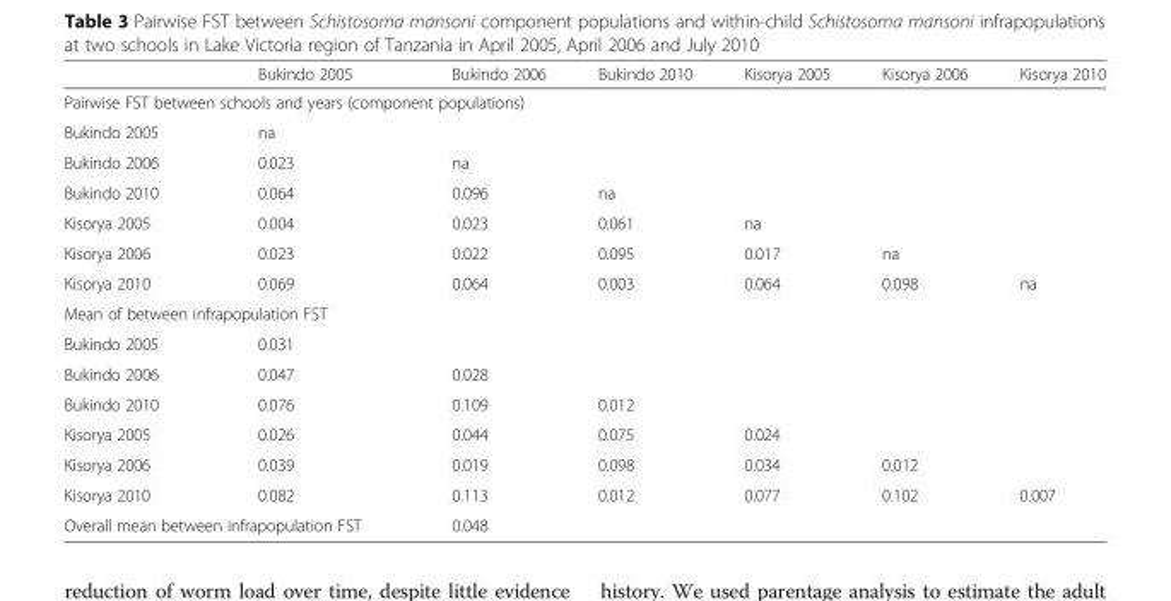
<table><thead><tr><td></td><td>Bukindo 2005</td><td>Bukindo 2006</td><td>Bukindo 2010</td><td>Kisorya 2005</td><td>Kisorya 2006</td><td>Kisorya 2010</td></tr></thead><tbody><tr><td colspan="7">Pairwise FST between schools and years (component populations)</td></tr><tr><td>Bukindo 2005</td><td>na</td><td></td><td></td><td></td><td></td><td></td></tr><tr><td>Bukindo 2006</td><td>0.023</td><td>na</td><td></td><td></td><td></td><td></td></tr><tr><td>Bukindo 2010</td><td>0.064</td><td>0.096</td><td>na</td><td></td><td></td><td></td></tr><tr><td>Kisorya 2005</td><td>0.004</td><td>0.023</td><td>0.061</td><td>na</td><td></td><td></td></tr><tr><td>Kisorya 2006</td><td>0.023</td><td>0.022</td><td>0.095</td><td>0.017</td><td>na</td><td></td></tr><tr><td>Kisorya 2010</td><td>0.069</td><td>0.064</td><td>0.003</td><td>0.064</td><td>0.098</td><td>na</td></tr><tr><td colspan="7">Mean of between infrapopulation FST</td></tr><tr><td>Bukindo 2005</td><td>0.031</td><td></td><td></td><td></td><td></td><td></td></tr><tr><td>Bukindo 2006</td><td>0.047</td><td>0.028</td><td></td><td></td><td></td><td></td></tr><tr><td>Bukindo 2010</td><td>0.076</td><td>0.109</td><td>0.012</td><td></td><td></td><td></td></tr><tr><td>Kisorya 2005</td><td>0.026</td><td>0.044</td><td>0.075</td><td>0.024</td><td></td><td></td></tr><tr><td>Kisorya 2006</td><td>0.039</td><td>0.019</td><td>0.098</td><td>0.034</td><td>0.012</td><td></td></tr><tr><td>Kisorya 2010</td><td>0.082</td><td>0.113</td><td>0.012</td><td>0.077</td><td>0.102</td><td>0.007</td></tr><tr><td colspan="2">Overall mean between infrapopulation FST</td><td colspan="5">0.048</td></tr></tbody></table>